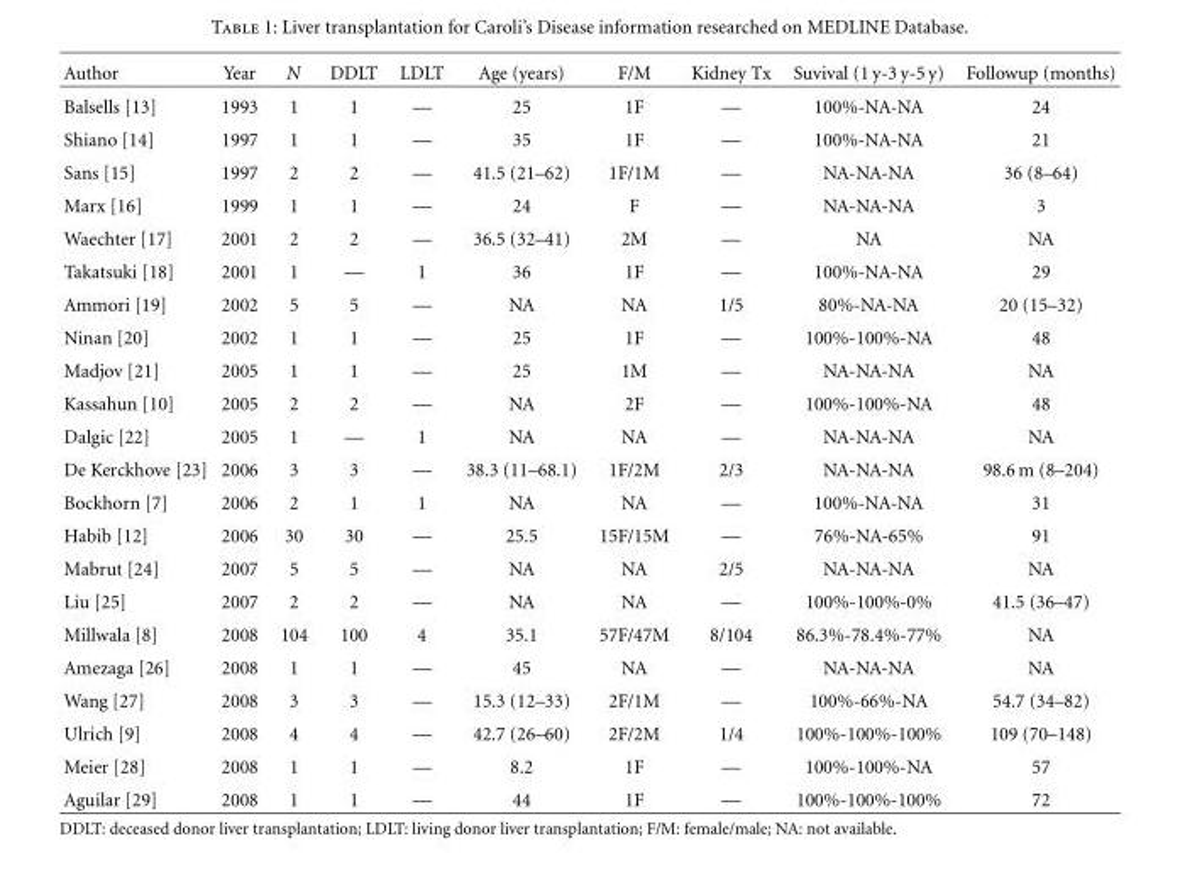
<table><thead><tr><td>Author</td><td>Year</td><td>N</td><td>DDLT</td><td>LDLT</td><td>Age (years)</td><td>F/M</td><td>Kidney Tx</td><td>Suvival (1 y-3 y-5 y)</td><td>Followup (months)</td></tr></thead><tbody><tr><td>Balsells [13]</td><td>1993</td><td>1</td><td>1</td><td>—</td><td>25</td><td>1F</td><td>—</td><td>100%-NA-NA</td><td>24</td></tr><tr><td>Shiano [14]</td><td>1997</td><td>1</td><td>1</td><td>—</td><td>35</td><td>1F</td><td>—</td><td>100%-NA-NA</td><td>21</td></tr><tr><td>Sans [15]</td><td>1997</td><td>2</td><td>2</td><td>—</td><td>41.5 (21–62)</td><td>1F/1M</td><td>—</td><td>NA-NA-NA</td><td>36 (8–64)</td></tr><tr><td>Marx [16]</td><td>1999</td><td>1</td><td>1</td><td>—</td><td>24</td><td>F</td><td>—</td><td>NA-NA-NA</td><td>3</td></tr><tr><td>Waechter [17]</td><td>2001</td><td>2</td><td>2</td><td>—</td><td>36.5 (32–41)</td><td>2M</td><td>—</td><td>NA</td><td>NA</td></tr><tr><td>Takatsuki [18]</td><td>2001</td><td>1</td><td>—</td><td>1</td><td>36</td><td>1F</td><td>—</td><td>100%-NA-NA</td><td>29</td></tr><tr><td>Ammori [19]</td><td>2002</td><td>5</td><td>5</td><td>—</td><td>NA</td><td>NA</td><td>1/5</td><td>80%-NA-NA</td><td>20 (15–32)</td></tr><tr><td>Ninan [20]</td><td>2002</td><td>1</td><td>1</td><td>—</td><td>25</td><td>1F</td><td>—</td><td>100%-100%-NA</td><td>48</td></tr><tr><td>Madjov [21]</td><td>2005</td><td>1</td><td>1</td><td>—</td><td>25</td><td>1M</td><td>—</td><td>NA-NA-NA</td><td>NA</td></tr><tr><td>Kassahun [10]</td><td>2005</td><td>2</td><td>2</td><td>—</td><td>NA</td><td>2F</td><td>—</td><td>100%-100%-NA</td><td>48</td></tr><tr><td>Dalgic [22]</td><td>2005</td><td>1</td><td>—</td><td>1</td><td>NA</td><td>NA</td><td>—</td><td>NA-NA-NA</td><td>NA</td></tr><tr><td>De Kerckhove [23]</td><td>2006</td><td>3</td><td>3</td><td>—</td><td>38.3 (11–68.1)</td><td>1F/2M</td><td>2/3</td><td>NA-NA-NA</td><td>98.6 m (8–204)</td></tr><tr><td>Bockhorn [7]</td><td>2006</td><td>2</td><td>1</td><td>1</td><td>NA</td><td>NA</td><td>—</td><td>100%-NA-NA</td><td>31</td></tr><tr><td>Habib [12]</td><td>2006</td><td>30</td><td>30</td><td>—</td><td>25.5</td><td>15F/15M</td><td>—</td><td>76%-NA-65%</td><td>91</td></tr><tr><td>Mabrut [24]</td><td>2007</td><td>5</td><td>5</td><td>—</td><td>NA</td><td>NA</td><td>2/5</td><td>NA-NA-NA</td><td>NA</td></tr><tr><td>Liu [25]</td><td>2007</td><td>2</td><td>2</td><td>—</td><td>NA</td><td>NA</td><td>—</td><td>100%-100%-0%</td><td>41.5 (36–47)</td></tr><tr><td>Millwala [8]</td><td>2008</td><td>104</td><td>100</td><td>4</td><td>35.1</td><td>57F/47M</td><td>8/104</td><td>86.3%-78.4%-77%</td><td>NA</td></tr><tr><td>Amezaga [26]</td><td>2008</td><td>1</td><td>1</td><td>—</td><td>45</td><td>NA</td><td>—</td><td>NA-NA-NA</td><td>NA</td></tr><tr><td>Wang [27]</td><td>2008</td><td>3</td><td>3</td><td>—</td><td>15.3 (12–33)</td><td>2F/1M</td><td>—</td><td>100%-66%-NA</td><td>54.7 (34–82)</td></tr><tr><td>Ulrich [9]</td><td>2008</td><td>4</td><td>4</td><td>—</td><td>42.7 (26–60)</td><td>2F/2M</td><td>1/4</td><td>100%-100%-100%</td><td>109 (70–148)</td></tr><tr><td>Meier [28]</td><td>2008</td><td>1</td><td>1</td><td>—</td><td>8.2</td><td>1F</td><td>—</td><td>100%-100%-NA</td><td>57</td></tr><tr><td>Aguilar [29]</td><td>2008</td><td>1</td><td>1</td><td>—</td><td>44</td><td>1F</td><td>—</td><td>100%-100%-100%</td><td>72</td></tr></tbody></table>